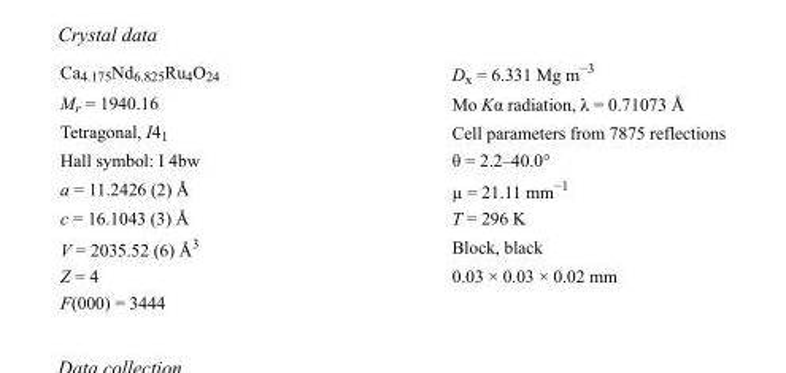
<table><tbody><tr><td>Ca<sub>4.175</sub>Nd<sub>6.825</sub>Ru<sub>4</sub>O<sub>24</sub></td><td>D<sub>x</sub> = 6.331 Mg m<sup>−3</sup></td></tr><tr><td>M<sub>r</sub> = 1940.16</td><td>Mo Kα radiation, λ = 0.71073 Å</td></tr><tr><td>Tetragonal, I4<sub>1</sub></td><td>Cell parameters from 7875 reflections</td></tr><tr><td>Hall symbol: I 4bw</td><td>θ = 2.2–40.0°</td></tr><tr><td>a = 11.2426 (2) Å</td><td>µ = 21.11 mm<sup>−1</sup></td></tr><tr><td>c = 16.1043 (3) Å</td><td>T = 296 K</td></tr><tr><td>V = 2035.52 (6) Å<sup>3</sup></td><td>Block, black</td></tr><tr><td>Z = 4</td><td>0.03 × 0.03 × 0.02 mm</td></tr><tr><td>F(000) = 3444</td><td></td></tr></tbody></table>